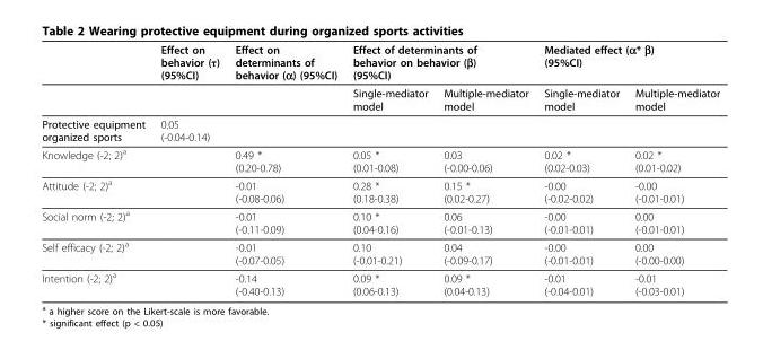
<table><thead><tr><td rowspan="2"></td><td rowspan="2">Effect on behavior (τ) (95%CI)</td><td rowspan="2">Effect on determinants of behavior (α) (95%CI)</td><td colspan="2">Effect of determinants of behavior on behavior (β) (95%CI)</td><td colspan="2">Mediated effect (α* β) (95%CI)</td></tr><tr><td>Single-mediator model</td><td>Multiple-mediator model</td><td>Single-mediator model</td><td>Multiple-mediator model</td></tr></thead><tbody><tr><td>Protective equipment organized sports</td><td>0.05 (-0.04-0.14)</td><td></td><td></td><td></td><td></td><td></td></tr><tr><td>Knowledge (-2; 2)<sup>a</sup></td><td></td><td>0.49 * (0.20-0.78)</td><td>0.05 * (0.01-0.08)</td><td>0.03 (-0.00-0.06)</td><td>0.02 * (0.02-0.03)</td><td>0.02 * (0.01-0.02)</td></tr><tr><td>Attitude (-2; 2)<sup>a</sup></td><td></td><td>-0.01 (-0.08-0.06)</td><td>0.28 * (0.18-0.38)</td><td>0.15 * (0.02-0.27)</td><td>-0.00 (-0.02-0.02)</td><td>-0.00 (-0.01-0.01)</td></tr><tr><td>Social norm (-2; 2)<sup>a</sup></td><td></td><td>-0.01 (-0.11-0.09)</td><td>0.10 * (0.04-0.16)</td><td>0.06 (-0.01-0.13)</td><td>-0.00 (-0.01-0.01)</td><td>0.00 (-0.01-0.01)</td></tr><tr><td>Self efficacy (-2; 2)<sup>a</sup></td><td></td><td>-0.01 (-0.07-0.05)</td><td>0.10 (-0.01-0.21)</td><td>0.04 (-0.09-0.17)</td><td>-0.00 (-0.01-0.01)</td><td>0.00 (-0.00-0.00)</td></tr><tr><td>Intention (-2; 2)<sup>a</sup></td><td></td><td>-0.14 (-0.40-0.13)</td><td>0.09 * (0.06-0.13)</td><td>0.09 * (0.04-0.13)</td><td>-0.01 (-0.04-0.01)</td><td>-0.01 (-0.03-0.01)</td></tr></tbody></table>